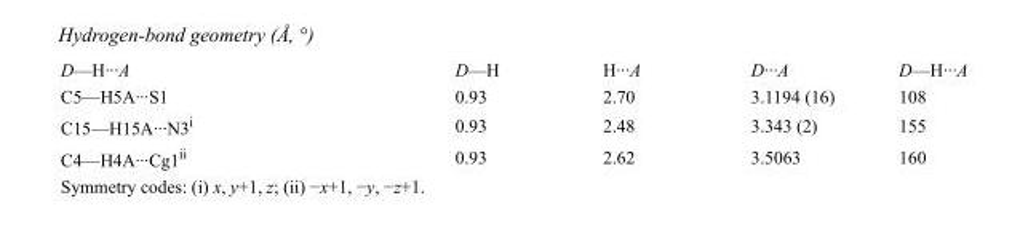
<table><tbody><tr><td>D—H···A</td><td>D—H</td><td>H···A</td><td>D···A</td><td>D—H···A</td></tr><tr><td>C5—H5A···S1</td><td>0.93</td><td>2.70</td><td>3.1194 (16)</td><td>108</td></tr><tr><td>C15—H15A···N3<sup>i</sup></td><td>0.93</td><td>2.48</td><td>3.343 (2)</td><td>155</td></tr><tr><td>C4—H4A···Cg1<sup>ii</sup></td><td>0.93</td><td>2.62</td><td>3.5063</td><td>160</td></tr></tbody></table>